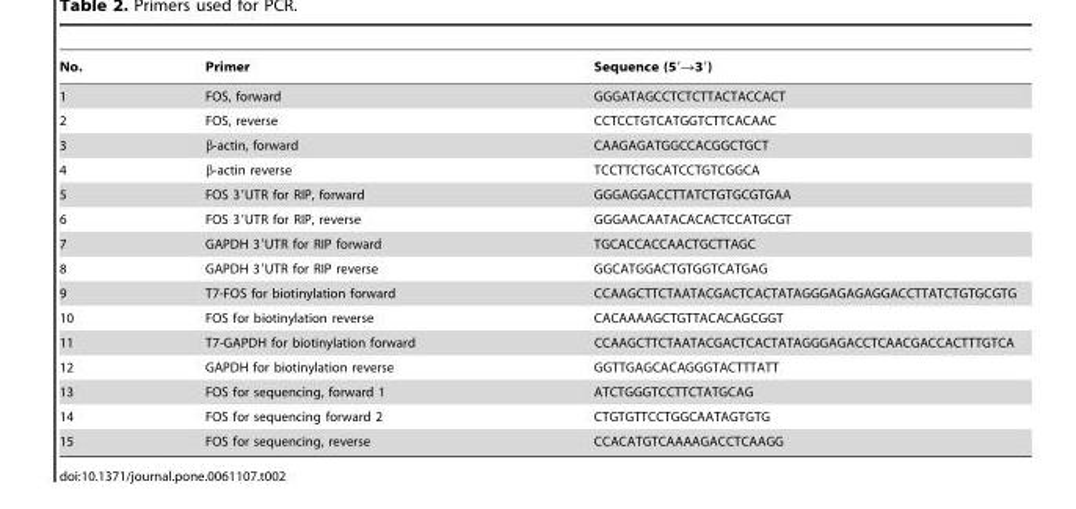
<table><thead><tr><td>No.</td><td>Primer</td><td>Sequence (5′→3′)</td></tr></thead><tbody><tr><td>1</td><td>FOS, forward</td><td>GGGATAGCCTCTCTTACTACCACT</td></tr><tr><td>2</td><td>FOS, reverse</td><td>CCTCCTGTCATGGTCTTCACAAC</td></tr><tr><td>3</td><td>β-actin, forward</td><td>CAAGAGATGGCCACGGCTGCT</td></tr><tr><td>4</td><td>β-actin reverse</td><td>TCCTTCTGCATCCTGTCGGCA</td></tr><tr><td>5</td><td>FOS 3′UTR for RIP, forward</td><td>GGGAGGACCTTATCTGTGCGTGAA</td></tr><tr><td>6</td><td>FOS 3′UTR for RIP, reverse</td><td>GGGAACAATACACACTCCATGCGT</td></tr><tr><td>7</td><td>GAPDH 3′UTR for RIP forward</td><td>TGCACCACCAACTGCTTAGC</td></tr><tr><td>8</td><td>GAPDH 3′UTR for RIP reverse</td><td>GGCATGGACTGTGGTCATGAG</td></tr><tr><td>9</td><td>T7-FOS for biotinylation forward</td><td>CCAAGCTTCTAATACGACTCACTATAGGGAGAGAGGACCTTATCTGTGCGTG</td></tr><tr><td>10</td><td>FOS for biotinylation reverse</td><td>CACAAAAGCTGTTACACAGCGGT</td></tr><tr><td>11</td><td>T7-GAPDH for biotinylation forward</td><td>CCAAGCTTCTAATACGACTCACTATAGGGAGACCTCAACGACCACTTTGTCA</td></tr><tr><td>12</td><td>GAPDH for biotinylation reverse</td><td>GGTTGAGCACAGGGTACTTTATT</td></tr><tr><td>13</td><td>FOS for sequencing, forward 1</td><td>ATCTGGGTCCTTCTATGCAG</td></tr><tr><td>14</td><td>FOS for sequencing forward 2</td><td>CTGTGTTCCTGGCAATAGTGTG</td></tr><tr><td>15</td><td>FOS for sequencing, reverse</td><td>CCACATGTCAAAAGACCTCAAGG</td></tr></tbody></table>